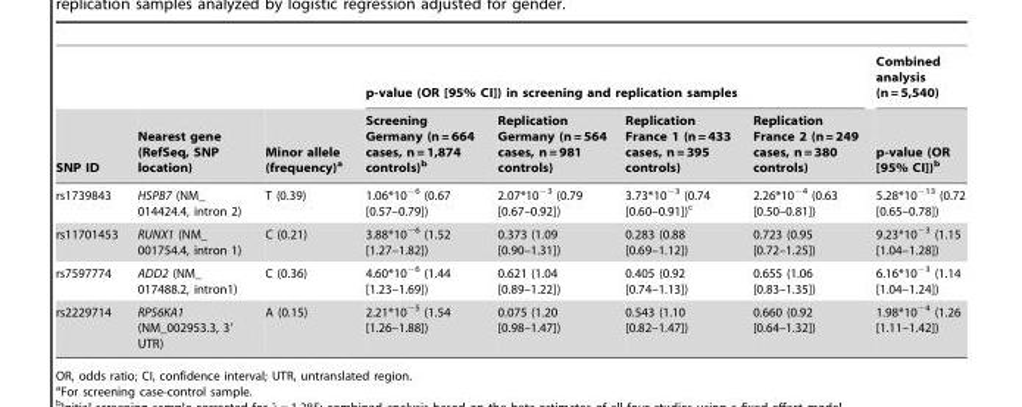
<table><thead><tr><td rowspan="2">SNP ID</td><td rowspan="2">Nearest gene (RefSeq, SNP location)</td><td rowspan="2">Minor allele (frequency)<sup>a</sup></td><td colspan="4">p-value (OR [95% CI]) in screening and replication samples</td><td rowspan="2">Combined analysis (n = 5,540) p-value (OR [95% CI])<sup>b</sup></td></tr><tr><td>Screening Germany (n = 664 cases, n = 1,874 controls)<sup>b</sup></td><td>Replication Germany (n = 564 cases, n = 981 controls)</td><td>Replication France 1 (n = 433 cases, n = 395 controls)</td><td>Replication France 2 (n = 249 cases, n = 380 controls)</td></tr></thead><tbody><tr><td>rs1739843</td><td>HSPB7 (NM_ 014424.4, intron 2)</td><td>T (0.39)</td><td>1.06*10<sup>−6</sup> (0.67 [0.57–0.79])</td><td>2.07*10<sup>−3</sup> (0.79 [0.67–0.92])</td><td>3.73*10<sup>−3</sup> (0.74 [0.60–0.91])<sup>c</sup></td><td>2.26*10<sup>−4</sup> (0.63 [0.50–0.81])</td><td>5.28*10<sup>−13</sup> (0.72 [0.65–0.78])</td></tr><tr><td>rs11701453</td><td>RUNX1 (NM_ 001754.4, intron 1)</td><td>C (0.21)</td><td>3.88*10<sup>−6</sup> (1.52 [1.27–1.82])</td><td>0.373 (1.09 [0.90–1.31])</td><td>0.283 (0.88 [0.69–1.12])</td><td>0.723 (0.95 [0.72–1.25])</td><td>9.23*10<sup>−3</sup> (1.15 [1.04–1.28])</td></tr><tr><td>rs7597774</td><td>ADD2 (NM_ 017488.2, intron1)</td><td>C (0.36)</td><td>4.60*10<sup>−6</sup> (1.44 [1.23–1.69])</td><td>0.621 (1.04 [0.89–1.22])</td><td>0.405 (0.92 [0.74–1.13])</td><td>0.655 (1.06 [0.83–1.35])</td><td>6.16*10<sup>−3</sup> (1.14 [1.04–1.24])</td></tr><tr><td>rs2229714</td><td>RPS6KA1 (NM_002953.3, 3′ UTR)</td><td>A (0.15)</td><td>2.21*10<sup>−5</sup> (1.54 [1.26–1.88])</td><td>0.075 (1.20 [0.98–1.47])</td><td>0.543 (1.10 [0.82–1.47])</td><td>0.660 (0.92 [0.64–1.32])</td><td>1.98*10<sup>−4</sup> (1.26 [1.11–1.42])</td></tr></tbody></table>